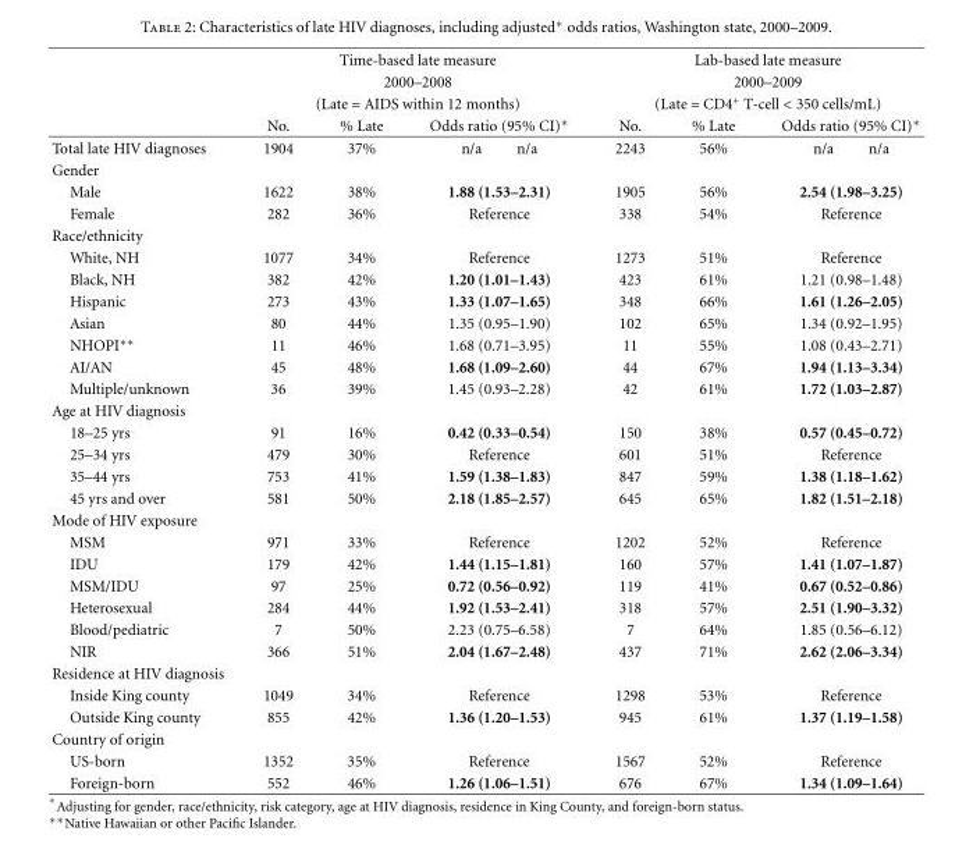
<table><thead><tr><td rowspan="4"></td><td rowspan="3" colspan="3">Time-based late measure 2000–2008 (Late = AIDS within 12 months)</td><td rowspan="3" colspan="3">Lab-based late measure 2000–2009 (Late = CD4<sup>+</sup> T-cell &lt; 350 cells/mL)</td></tr><tr></tr><tr></tr><tr><td>No.</td><td>% Late</td><td>Odds ratio (95% CI)∗</td><td>No.</td><td>% Late</td><td>Odds ratio (95% CI)∗</td></tr></thead><tbody><tr><td>Total late HIV diagnoses</td><td>1904</td><td>37%</td><td>n/a n/a</td><td>2243</td><td>56%</td><td>n/a n/a</td></tr><tr><td colspan="7">Gender</td></tr><tr><td>Male</td><td>1622</td><td>38%</td><td>1.88 (1.53–2.31)</td><td>1905</td><td>56%</td><td>2.54 (1.98–3.25)</td></tr><tr><td>Female</td><td>282</td><td>36%</td><td>Reference</td><td>338</td><td>54%</td><td>Reference</td></tr><tr><td colspan="7">Race/ethnicity</td></tr><tr><td>White, NH</td><td>1077</td><td>34%</td><td>Reference</td><td>1273</td><td>51%</td><td>Reference</td></tr><tr><td>Black, NH</td><td>382</td><td>42%</td><td>1.20 (1.01–1.43)</td><td>423</td><td>61%</td><td>1.21 (0.98–1.48)</td></tr><tr><td>Hispanic</td><td>273</td><td>43%</td><td>1.33 (1.07–1.65)</td><td>348</td><td>66%</td><td>1.61 (1.26–2.05)</td></tr><tr><td>Asian</td><td>80</td><td>44%</td><td>1.35 (0.95–1.90)</td><td>102</td><td>65%</td><td>1.34 (0.92–1.95)</td></tr><tr><td>NHOPI∗∗</td><td>11</td><td>46%</td><td>1.68 (0.71–3.95)</td><td>11</td><td>55%</td><td>1.08 (0.43–2.71)</td></tr><tr><td>AI/AN</td><td>45</td><td>48%</td><td>1.68 (1.09–2.60)</td><td>44</td><td>67%</td><td>1.94 (1.13–3.34)</td></tr><tr><td>Multiple/unknown</td><td>36</td><td>39%</td><td>1.45 (0.93–2.28)</td><td>42</td><td>61%</td><td>1.72 (1.03–2.87)</td></tr><tr><td colspan="7">Age at HIV diagnosis</td></tr><tr><td>18–25 yrs</td><td>91</td><td>16%</td><td>0.42 (0.33–0.54)</td><td>150</td><td>38%</td><td>0.57 (0.45–0.72)</td></tr><tr><td>25–34 yrs</td><td>479</td><td>30%</td><td>Reference</td><td>601</td><td>51%</td><td>Reference</td></tr><tr><td>35–44 yrs</td><td>753</td><td>41%</td><td>1.59 (1.38–1.83)</td><td>847</td><td>59%</td><td>1.38 (1.18–1.62)</td></tr><tr><td>45 yrs and over</td><td>581</td><td>50%</td><td>2.18 (1.85–2.57)</td><td>645</td><td>65%</td><td>1.82 (1.51–2.18)</td></tr><tr><td colspan="7">Mode of HIV exposure</td></tr><tr><td>MSM</td><td>971</td><td>33%</td><td>Reference</td><td>1202</td><td>52%</td><td>Reference</td></tr><tr><td>IDU</td><td>179</td><td>42%</td><td>1.44 (1.15–1.81)</td><td>160</td><td>57%</td><td>1.41 (1.07–1.87)</td></tr><tr><td>MSM/IDU</td><td>97</td><td>25%</td><td>0.72 (0.56–0.92)</td><td>119</td><td>41%</td><td>0.67 (0.52–0.86)</td></tr><tr><td>Heterosexual</td><td>284</td><td>44%</td><td>1.92 (1.53–2.41)</td><td>318</td><td>57%</td><td>2.51 (1.90–3.32)</td></tr><tr><td>Blood/pediatric</td><td>7</td><td>50%</td><td>2.23 (0.75–6.58)</td><td>7</td><td>64%</td><td>1.85 (0.56–6.12)</td></tr><tr><td>NIR</td><td>366</td><td>51%</td><td>2.04 (1.67–2.48)</td><td>437</td><td>71%</td><td>2.62 (2.06–3.34)</td></tr><tr><td colspan="7">Residence at HIV diagnosis</td></tr><tr><td>Inside King county</td><td>1049</td><td>34%</td><td>Reference</td><td>1298</td><td>53%</td><td>Reference</td></tr><tr><td>Outside King county</td><td>855</td><td>42%</td><td>1.36 (1.20–1.53)</td><td>945</td><td>61%</td><td>1.37 (1.19–1.58)</td></tr><tr><td colspan="7">Country of origin</td></tr><tr><td>US-born</td><td>1352</td><td>35%</td><td>Reference</td><td>1567</td><td>52%</td><td>Reference</td></tr><tr><td>Foreign-born</td><td>552</td><td>46%</td><td>1.26 (1.06–1.51)</td><td>676</td><td>67%</td><td>1.34 (1.09–1.64)</td></tr></tbody></table>